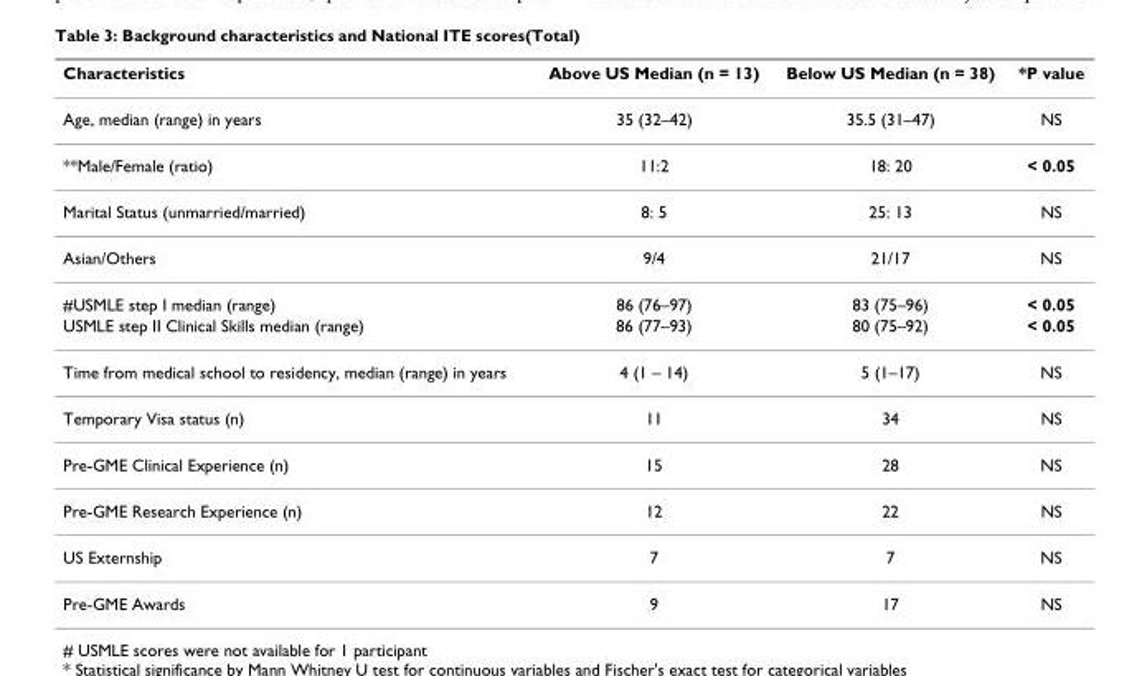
<table><thead><tr><td>Characteristics</td><td>Above US Median (n = 13)</td><td>Below US Median (n = 38)</td><td>*P value</td></tr></thead><tbody><tr><td>Age, median (range) in years</td><td>35 (32–42)</td><td>35.5 (31–47)</td><td>NS</td></tr><tr><td>**Male/Female (ratio)</td><td>11:2</td><td>18: 20</td><td>&lt; 0.05</td></tr><tr><td>Marital Status (unmarried/married)</td><td>8: 5</td><td>25: 13</td><td>NS</td></tr><tr><td>Asian/Others</td><td>9/4</td><td>21/17</td><td>NS</td></tr><tr><td>#USMLE step I median (range)</td><td>86 (76–97)</td><td>83 (75–96)</td><td>&lt; 0.05</td></tr><tr><td>USMLE step II Clinical Skills median (range)</td><td>86 (77–93)</td><td>80 (75–92)</td><td>&lt; 0.05</td></tr><tr><td>Time from medical school to residency, median (range) in years</td><td>4 (1 – 14)</td><td>5 (1–17)</td><td>NS</td></tr><tr><td>Temporary Visa status (n)</td><td>11</td><td>34</td><td>NS</td></tr><tr><td>Pre-GME Clinical Experience (n)</td><td>15</td><td>28</td><td>NS</td></tr><tr><td>Pre-GME Research Experience (n)</td><td>12</td><td>22</td><td>NS</td></tr><tr><td>US Externship</td><td>7</td><td>7</td><td>NS</td></tr><tr><td>Pre-GME Awards</td><td>9</td><td>17</td><td>NS</td></tr></tbody></table>